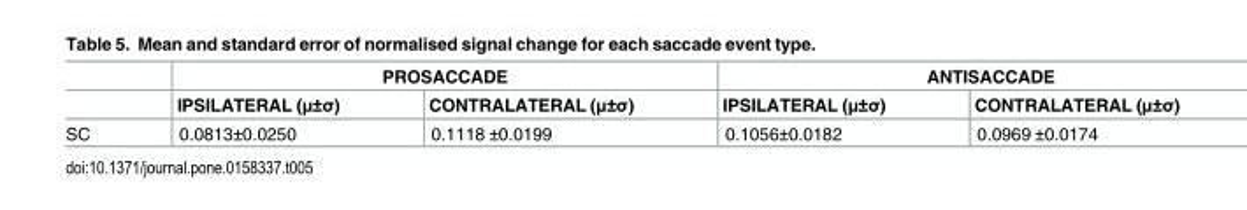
<table><thead><tr><td rowspan="2"></td><td colspan="2">PROSACCADE</td><td colspan="2">ANTISACCADE</td></tr><tr><td>IPSILATERAL (μ±σ)</td><td>CONTRALATERAL (μ±σ)</td><td>IPSILATERAL (μ±σ)</td><td>CONTRALATERAL (μ±σ)</td></tr></thead><tbody><tr><td>SC</td><td>0.0813±0.0250</td><td>0.1118 ±0.0199</td><td>0.1056±0.0182</td><td>0.0969 ±0.0174</td></tr></tbody></table>